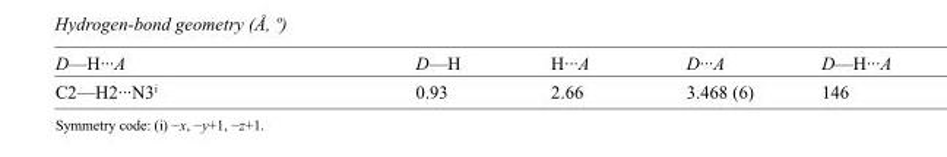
<table><tbody><tr><td>D—H···A</td><td>D—H</td><td>H···A</td><td>D···A</td><td>D—H···A</td></tr><tr><td>C2—H2···N3<sup>i</sup></td><td>0.93</td><td>2.66</td><td>3.468 (6)</td><td>146</td></tr></tbody></table>